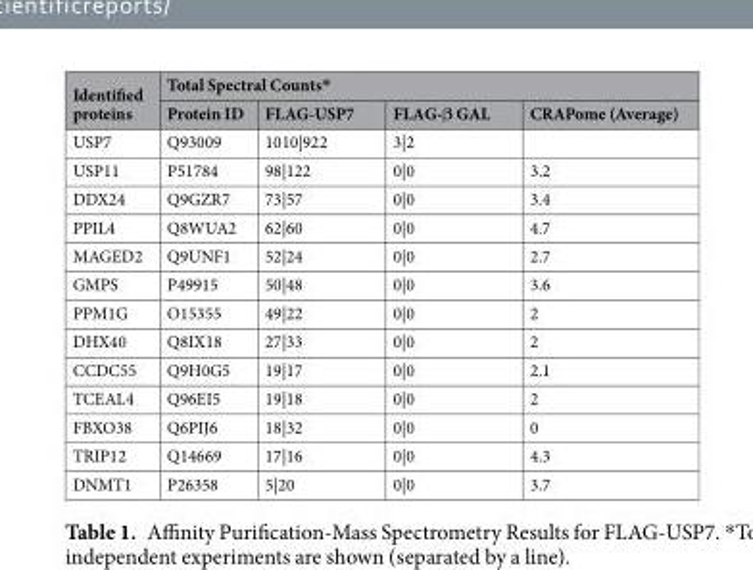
<table><thead><tr><td rowspan="2">Identified proteins</td><td colspan="4">Total Spectral Counts*</td></tr><tr><td>Protein ID</td><td>FLAG-USP7</td><td>FLAG-β GAL</td><td>CRAPome (Average)</td></tr></thead><tbody><tr><td>USP7</td><td>Q93009</td><td>1010|922</td><td>3|2</td><td></td></tr><tr><td>USP11</td><td>P51784</td><td>98|122</td><td>0|0</td><td>3.2</td></tr><tr><td>DDX24</td><td>Q9GZR7</td><td>73|57</td><td>0|0</td><td>3.4</td></tr><tr><td>PPIL4</td><td>Q8WUA2</td><td>62|60</td><td>0|0</td><td>4.7</td></tr><tr><td>MAGED2</td><td>Q9UNF1</td><td>52|24</td><td>0|0</td><td>2.7</td></tr><tr><td>GMPS</td><td>P49915</td><td>50|48</td><td>0|0</td><td>3.6</td></tr><tr><td>PPM1G</td><td>O15355</td><td>49|22</td><td>0|0</td><td>2</td></tr><tr><td>DHX40</td><td>Q8IX18</td><td>27|33</td><td>0|0</td><td>2</td></tr><tr><td>CCDC55</td><td>Q9H0G5</td><td>19|17</td><td>0|0</td><td>2.1</td></tr><tr><td>TCEAL4</td><td>Q96EI5</td><td>19|18</td><td>0|0</td><td>2</td></tr><tr><td>FBXO38</td><td>Q6PIJ6</td><td>18|32</td><td>0|0</td><td>0</td></tr><tr><td>TRIP12</td><td>Q14669</td><td>17|16</td><td>0|0</td><td>4.3</td></tr><tr><td>DNMT1</td><td>P26358</td><td>5|20</td><td>0|0</td><td>3.7</td></tr></tbody></table>